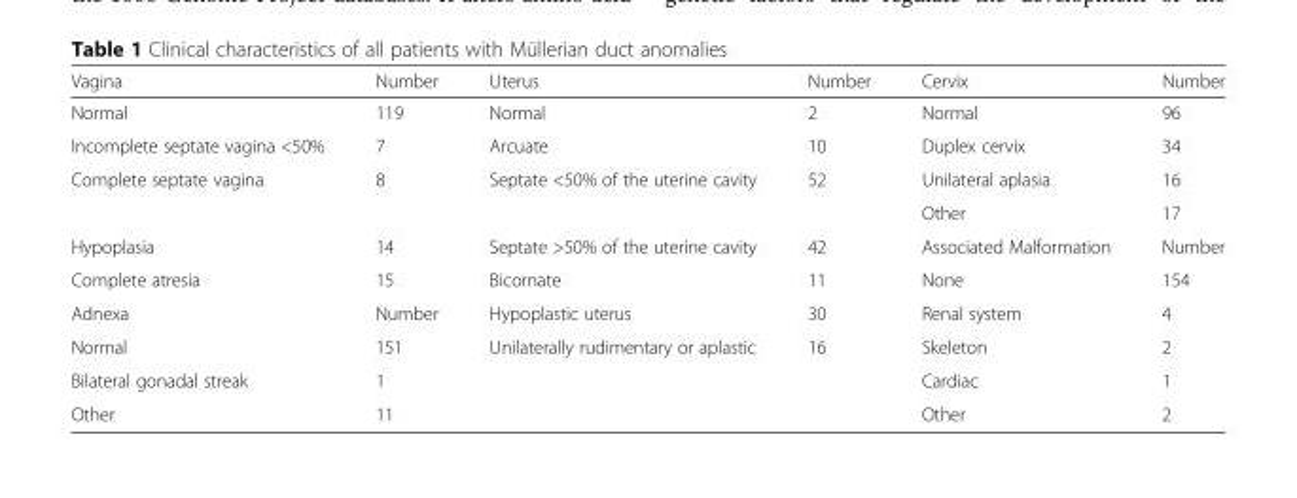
<table><thead><tr><td>Vagina</td><td>Number</td><td>Uterus</td><td>Number</td><td>Cervix</td><td>Number</td></tr></thead><tbody><tr><td>Normal</td><td>119</td><td>Normal</td><td>2</td><td>Normal</td><td>96</td></tr><tr><td>Incomplete septate vagina &lt;50%</td><td>7</td><td>Arcuate</td><td>10</td><td>Duplex cervix</td><td>34</td></tr><tr><td rowspan="2">Complete septate vagina</td><td rowspan="2">8</td><td rowspan="2">Septate &lt;50% of the uterine cavity</td><td rowspan="2">52</td><td>Unilateral aplasia</td><td>16</td></tr><tr><td>Other</td><td>17</td></tr><tr><td>Hypoplasia</td><td>14</td><td>Septate &gt;50% of the uterine cavity</td><td>42</td><td>Associated Malformation</td><td>Number</td></tr><tr><td>Complete atresia</td><td>15</td><td>Bicornate</td><td>11</td><td>None</td><td>154</td></tr><tr><td>Adnexa</td><td>Number</td><td>Hypoplastic uterus</td><td>30</td><td>Renal system</td><td>4</td></tr><tr><td>Normal</td><td>151</td><td rowspan="3">Unilaterally rudimentary or aplastic</td><td rowspan="3">16</td><td>Skeleton</td><td>2</td></tr><tr><td>Bilateral gonadal streak</td><td>1</td><td>Cardiac</td><td>1</td></tr><tr><td>Other</td><td>11</td><td>Other</td><td>2</td></tr></tbody></table>